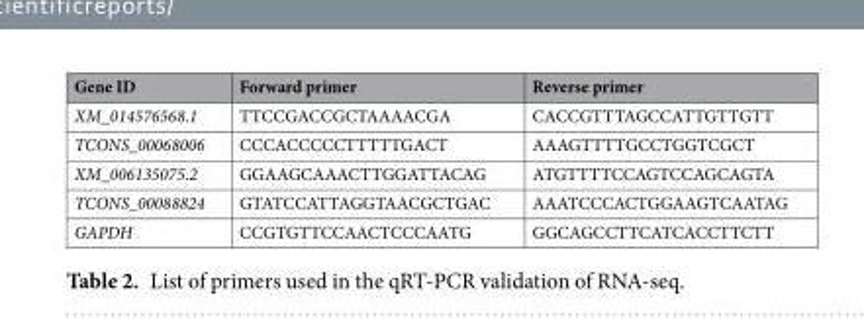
<table><thead><tr><td>Gene ID</td><td>Forward primer</td><td>Reverse primer</td></tr></thead><tbody><tr><td>XM_014576568.1</td><td>TTCCGACCGCTAAAACGA</td><td>CACCGTTTAGCCATTGTTGTT</td></tr><tr><td>TCONS_00068006</td><td>CCCACCCCCTTTTTGACT</td><td>AAAGTTTTGCCTGGTCGCT</td></tr><tr><td>XM_006135075.2</td><td>GGAAGCAAACTTGGATTACAG</td><td>ATGTTTTCCAGTCCAGCAGTA</td></tr><tr><td>TCONS_00088824</td><td>GTATCCATTAGGTAACGCTGAC</td><td>AAATCCCACTGGAAGTCAATAG</td></tr><tr><td>GAPDH</td><td>CCGTGTTCCAACTCCCAATG</td><td>GGCAGCCTTCATCACCTTCTT</td></tr></tbody></table>